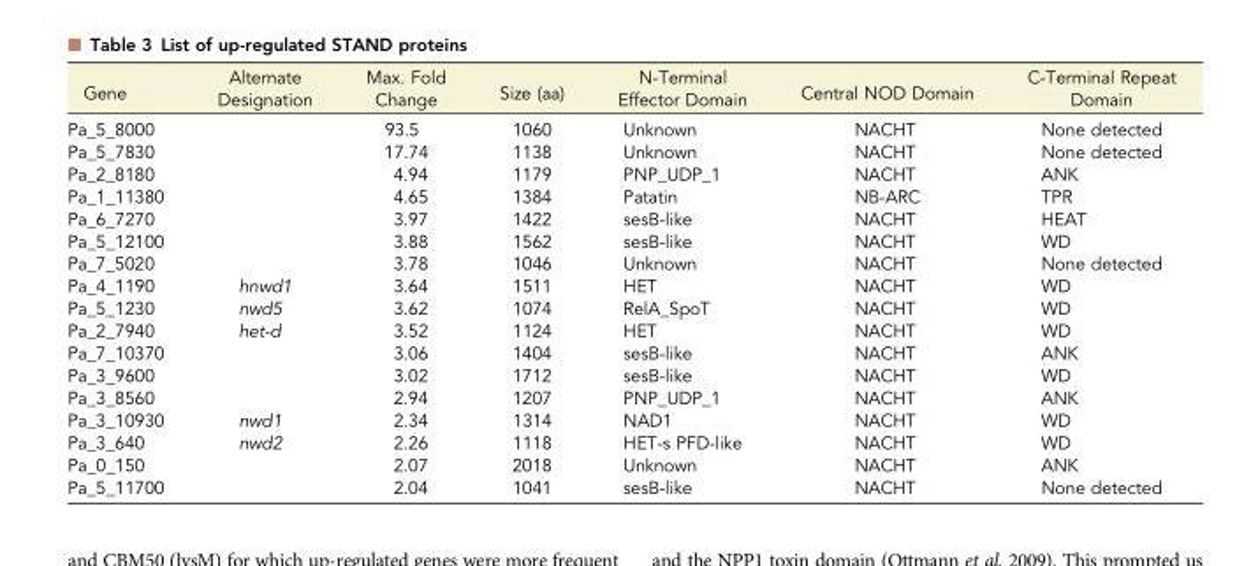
<table><thead><tr><td>Gene</td><td>Alternate Designation</td><td>Max. Fold Change</td><td>Size (aa)</td><td>N-Terminal Effector Domain</td><td>Central NOD Domain</td><td>C-Terminal Repeat Domain</td></tr></thead><tbody><tr><td>Pa_5_8000</td><td></td><td>93.5</td><td>1060</td><td>Unknown</td><td>NACHT</td><td>None detected</td></tr><tr><td>Pa_5_7830</td><td></td><td>17.74</td><td>1138</td><td>Unknown</td><td>NACHT</td><td>None detected</td></tr><tr><td>Pa_2_8180</td><td></td><td>4.94</td><td>1179</td><td>PNP_UDP_1</td><td>NACHT</td><td>ANK</td></tr><tr><td>Pa_1_11380</td><td></td><td>4.65</td><td>1384</td><td>Patatin</td><td>NB-ARC</td><td>TPR</td></tr><tr><td>Pa_6_7270</td><td></td><td>3.97</td><td>1422</td><td>sesB-like</td><td>NACHT</td><td>HEAT</td></tr><tr><td>Pa_5_12100</td><td></td><td>3.88</td><td>1562</td><td>sesB-like</td><td>NACHT</td><td>WD</td></tr><tr><td>Pa_7_5020</td><td></td><td>3.78</td><td>1046</td><td>Unknown</td><td>NACHT</td><td>None detected</td></tr><tr><td>Pa_4_1190</td><td>hnwd1</td><td>3.64</td><td>1511</td><td>HET</td><td>NACHT</td><td>WD</td></tr><tr><td>Pa_5_1230</td><td>nwd5</td><td>3.62</td><td>1074</td><td>RelA_SpoT</td><td>NACHT</td><td>WD</td></tr><tr><td>Pa_2_7940</td><td>het-d</td><td>3.52</td><td>1124</td><td>HET</td><td>NACHT</td><td>WD</td></tr><tr><td>Pa_7_10370</td><td></td><td>3.06</td><td>1404</td><td>sesB-like</td><td>NACHT</td><td>ANK</td></tr><tr><td>Pa_3_9600</td><td></td><td>3.02</td><td>1712</td><td>sesB-like</td><td>NACHT</td><td>WD</td></tr><tr><td>Pa_3_8560</td><td></td><td>2.94</td><td>1207</td><td>PNP_UDP_1</td><td>NACHT</td><td>ANK</td></tr><tr><td>Pa_3_10930</td><td>nwd1</td><td>2.34</td><td>1314</td><td>NAD1</td><td>NACHT</td><td>WD</td></tr><tr><td>Pa_3_640</td><td>nwd2</td><td>2.26</td><td>1118</td><td>HET-s PFD-like</td><td>NACHT</td><td>WD</td></tr><tr><td>Pa_0_150</td><td></td><td>2.07</td><td>2018</td><td>Unknown</td><td>NACHT</td><td>ANK</td></tr><tr><td>Pa_5_11700</td><td></td><td>2.04</td><td>1041</td><td>sesB-like</td><td>NACHT</td><td>None detected</td></tr></tbody></table>